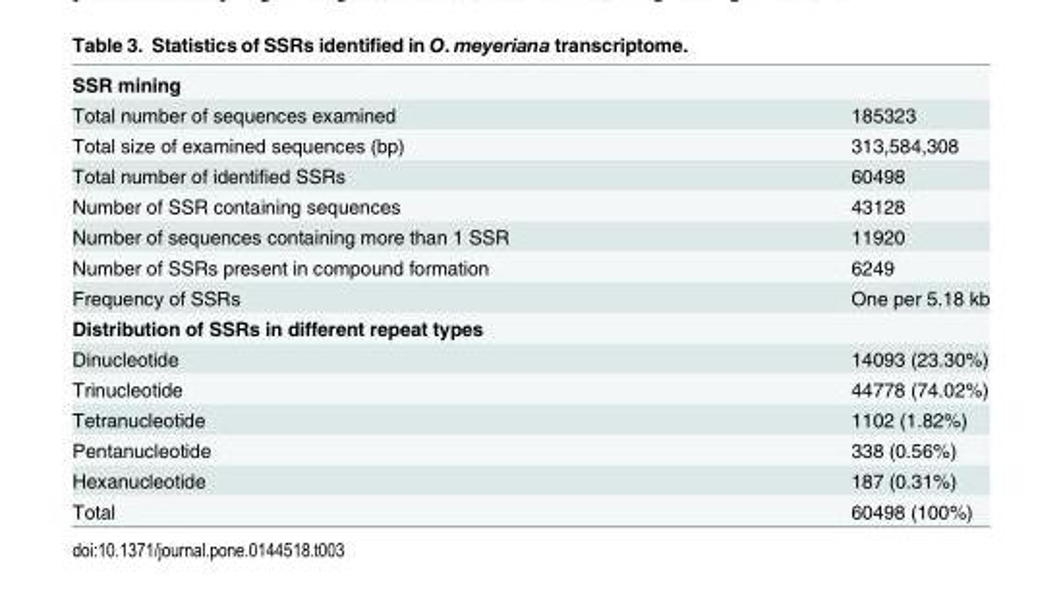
<table><tbody><tr><td colspan="2">SSR mining</td></tr><tr><td>Total number of sequences examined</td><td>185323</td></tr><tr><td>Total size of examined sequences (bp)</td><td>313,584,308</td></tr><tr><td>Total number of identified SSRs</td><td>60498</td></tr><tr><td>Number of SSR containing sequences</td><td>43128</td></tr><tr><td>Number of sequences containing more than 1 SSR</td><td>11920</td></tr><tr><td>Number of SSRs present in compound formation</td><td>6249</td></tr><tr><td>Frequency of SSRs</td><td>One per 5.18 kb</td></tr><tr><td colspan="2">Distribution of SSRs in different repeat types</td></tr><tr><td>Dinucleotide</td><td>14093 (23.30%)</td></tr><tr><td>Trinucleotide</td><td>44778 (74.02%)</td></tr><tr><td>Tetranucleotide</td><td>1102 (1.82%)</td></tr><tr><td>Pentanucleotide</td><td>338 (0.56%)</td></tr><tr><td>Hexanucleotide</td><td>187 (0.31%)</td></tr><tr><td>Total</td><td>60498 (100%)</td></tr></tbody></table>